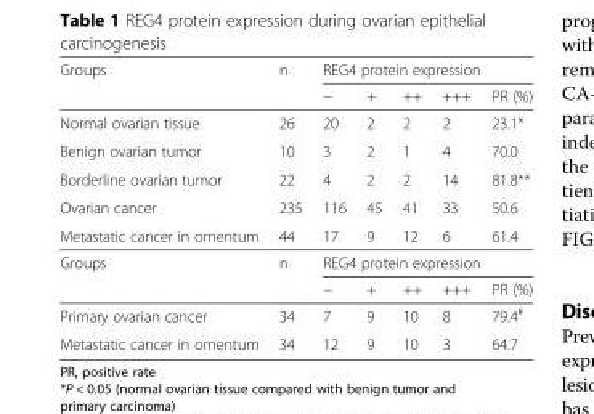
<table><thead><tr><td rowspan="2">Groups</td><td rowspan="2">n</td><td colspan="5">REG4 protein expression</td></tr><tr><td>−</td><td>+</td><td>++</td><td>+++</td><td>PR (%)</td></tr></thead><tbody><tr><td>Normal ovarian tissue</td><td>26</td><td>20</td><td>2</td><td>2</td><td>2</td><td>23.1*</td></tr><tr><td>Benign ovarian tumor</td><td>10</td><td>3</td><td>2</td><td>1</td><td>4</td><td>70.0</td></tr><tr><td>Borderline ovarian tumor</td><td>22</td><td>4</td><td>2</td><td>2</td><td>14</td><td>81.8**</td></tr><tr><td>Ovarian cancer</td><td>235</td><td>116</td><td>45</td><td>41</td><td>33</td><td>50.6</td></tr><tr><td>Metastatic cancer in omentum</td><td>44</td><td>17</td><td>9</td><td>12</td><td>6</td><td>61.4</td></tr><tr><td rowspan="2">Groups</td><td rowspan="2">n</td><td colspan="5">REG4 protein expression</td></tr><tr><td>−</td><td>+</td><td>++</td><td>+++</td><td>PR (%)</td></tr><tr><td>Primary ovarian cancer</td><td>34</td><td>7</td><td>9</td><td>10</td><td>8</td><td>79.4<sup>#</sup></td></tr><tr><td>Metastatic cancer in omentum</td><td>34</td><td>12</td><td>9</td><td>10</td><td>3</td><td>64.7</td></tr></tbody></table>